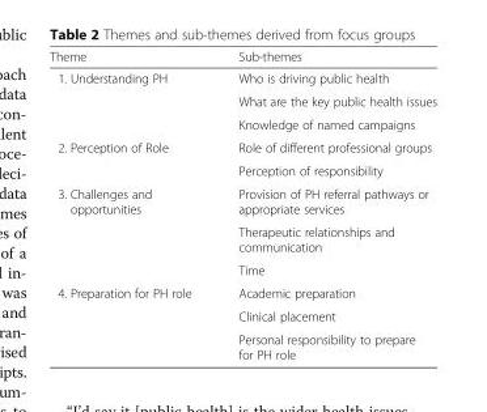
<table><thead><tr><td>Theme</td><td>Sub-themes</td></tr></thead><tbody><tr><td rowspan="3">1. Understanding PH</td><td>Who is driving public health</td></tr><tr><td>What are the key public health issues</td></tr><tr><td>Knowledge of named campaigns</td></tr><tr><td rowspan="2">2. Perception of Role</td><td>Role of different professional groups</td></tr><tr><td>Perception of responsibility</td></tr><tr><td rowspan="3">3. Challenges and opportunities</td><td>Provision of PH referral pathways or appropriate services</td></tr><tr><td>Therapeutic relationships and communication</td></tr><tr><td>Time</td></tr><tr><td rowspan="3">4. Preparation for PH role</td><td>Academic preparation</td></tr><tr><td>Clinical placement</td></tr><tr><td>Personal responsibility to prepare for PH role</td></tr></tbody></table>